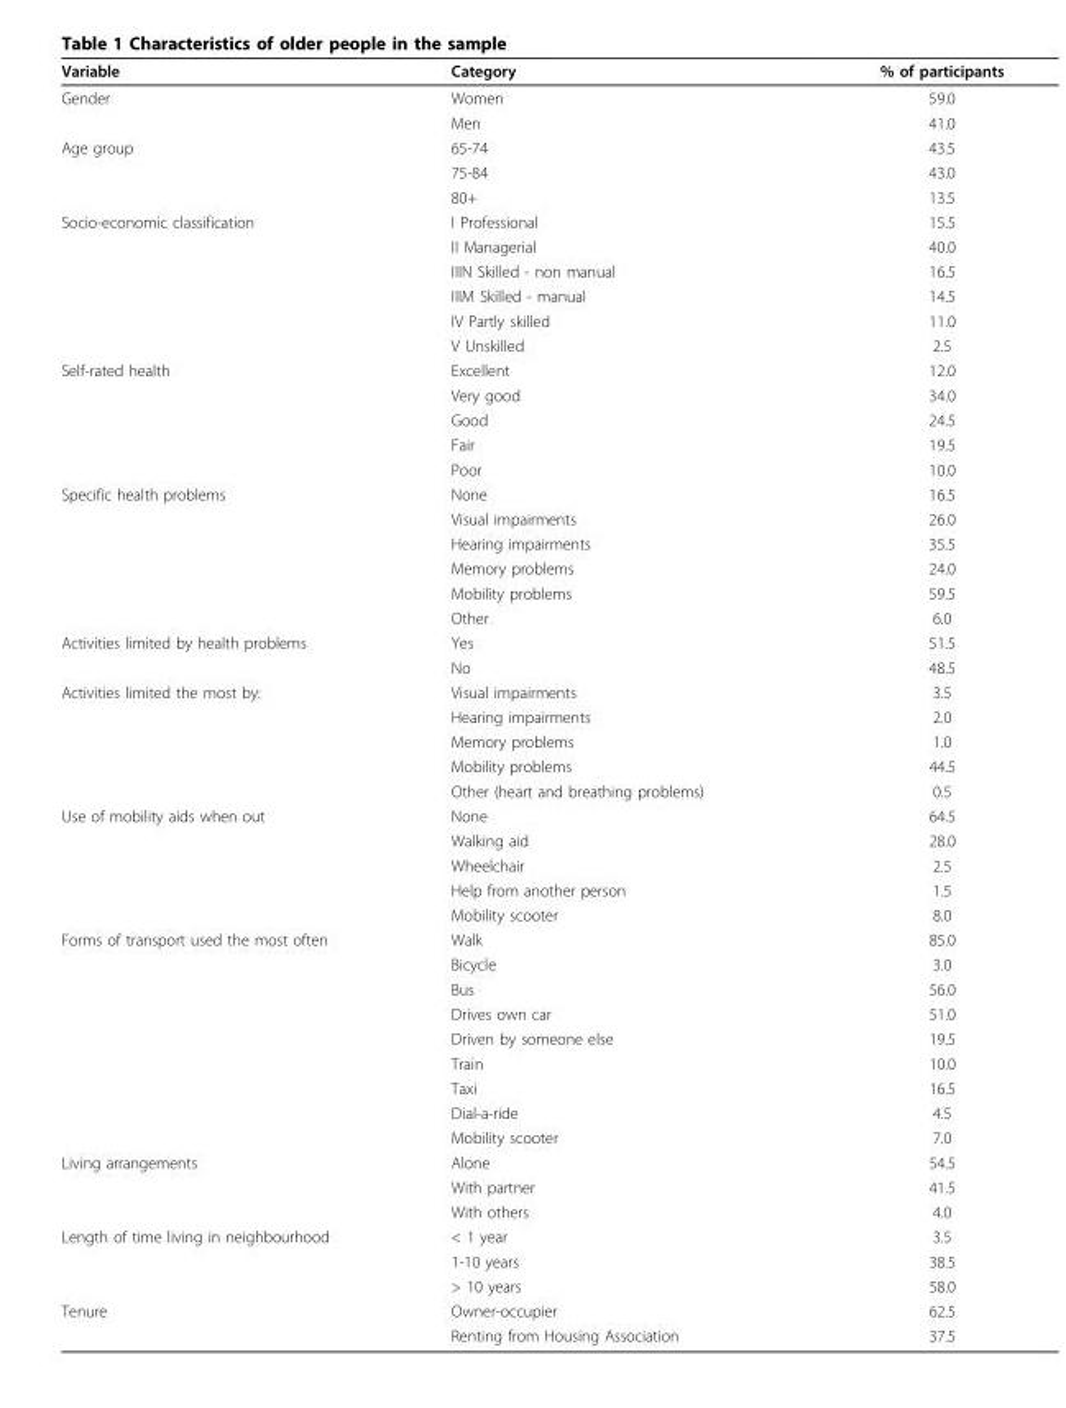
<table><thead><tr><td>Variable</td><td>Category</td><td>% of participants</td></tr></thead><tbody><tr><td rowspan="2">Gender</td><td>Women</td><td>59.0</td></tr><tr><td>Men</td><td>41.0</td></tr><tr><td rowspan="3">Age group</td><td>65-74</td><td>43.5</td></tr><tr><td>75-84</td><td>43.0</td></tr><tr><td>80+</td><td>13.5</td></tr><tr><td rowspan="6">Socio-economic classification</td><td>I Professional</td><td>15.5</td></tr><tr><td>II Managerial</td><td>40.0</td></tr><tr><td>IIIN Skilled - non manual</td><td>16.5</td></tr><tr><td>IIIM Skilled - manual</td><td>14.5</td></tr><tr><td>IV Partly skilled</td><td>11.0</td></tr><tr><td>V Unskilled</td><td>2.5</td></tr><tr><td rowspan="5">Self-rated health</td><td>Excellent</td><td>12.0</td></tr><tr><td>Very good</td><td>34.0</td></tr><tr><td>Good</td><td>24.5</td></tr><tr><td>Fair</td><td>19.5</td></tr><tr><td>Poor</td><td>10.0</td></tr><tr><td rowspan="6">Specific health problems</td><td>None</td><td>16.5</td></tr><tr><td>Visual impairments</td><td>26.0</td></tr><tr><td>Hearing impairments</td><td>35.5</td></tr><tr><td>Memory problems</td><td>24.0</td></tr><tr><td>Mobility problems</td><td>59.5</td></tr><tr><td>Other</td><td>6.0</td></tr><tr><td rowspan="2">Activities limited by health problems</td><td>Yes</td><td>51.5</td></tr><tr><td>No</td><td>48.5</td></tr><tr><td rowspan="5">Activities limited the most by:</td><td>Visual impairments</td><td>3.5</td></tr><tr><td>Hearing impairments</td><td>2.0</td></tr><tr><td>Memory problems</td><td>1.0</td></tr><tr><td>Mobility problems</td><td>44.5</td></tr><tr><td>Other (heart and breathing problems)</td><td>0.5</td></tr><tr><td rowspan="5">Use of mobility aids when out</td><td>None</td><td>64.5</td></tr><tr><td>Walking aid</td><td>28.0</td></tr><tr><td>Wheelchair</td><td>2.5</td></tr><tr><td>Help from another person</td><td>1.5</td></tr><tr><td>Mobility scooter</td><td>8.0</td></tr><tr><td rowspan="9">Forms of transport used the most often</td><td>Walk</td><td>85.0</td></tr><tr><td>Bicycle</td><td>3.0</td></tr><tr><td>Bus</td><td>56.0</td></tr><tr><td>Drives own car</td><td>51.0</td></tr><tr><td>Driven by someone else</td><td>19.5</td></tr><tr><td>Train</td><td>10.0</td></tr><tr><td>Taxi</td><td>16.5</td></tr><tr><td>Dial-a-ride</td><td>4.5</td></tr><tr><td>Mobility scooter</td><td>7.0</td></tr><tr><td rowspan="3">Living arrangements</td><td>Alone</td><td>54.5</td></tr><tr><td>With partner</td><td>41.5</td></tr><tr><td>With others</td><td>4.0</td></tr><tr><td rowspan="3">Length of time living in neighbourhood</td><td>&lt; 1 year</td><td>3.5</td></tr><tr><td>1-10 years</td><td>38.5</td></tr><tr><td>&gt; 10 years</td><td>58.0</td></tr><tr><td rowspan="2">Tenure</td><td>Owner-occupier</td><td>62.5</td></tr><tr><td>Renting from Housing Association</td><td>37.5</td></tr></tbody></table>